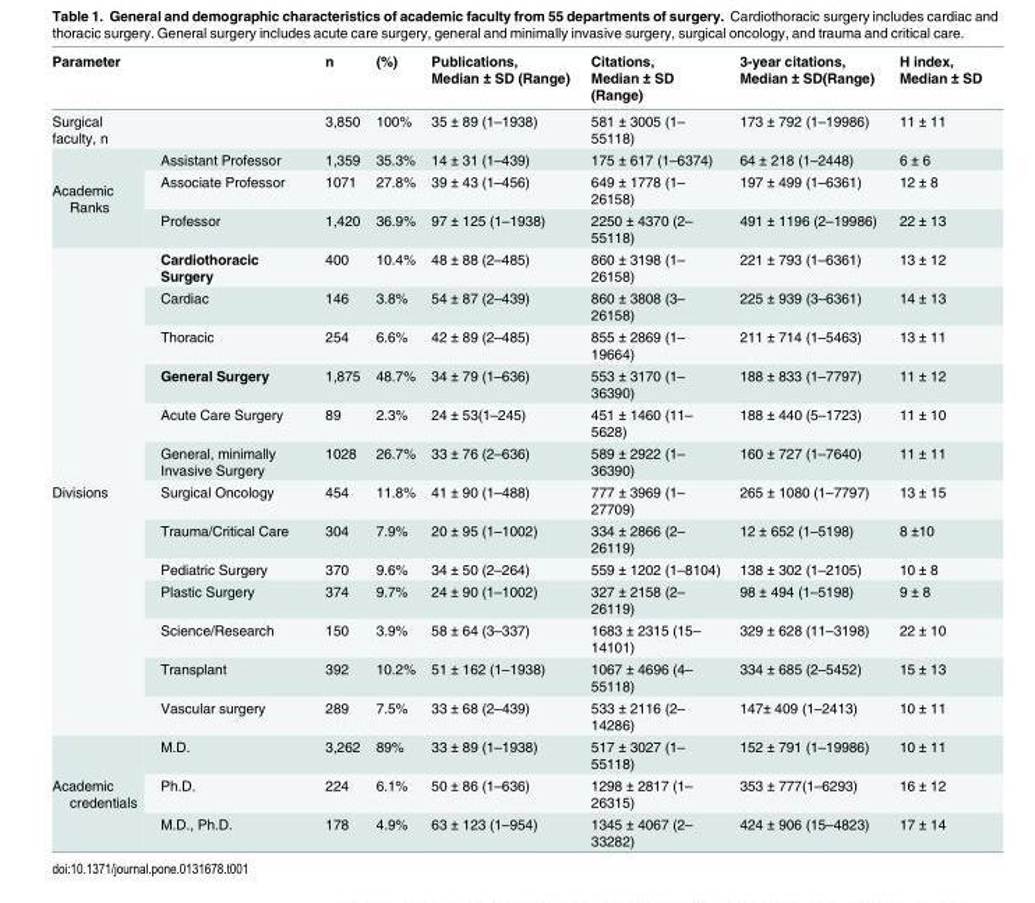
<table><thead><tr><td colspan="2">Parameter</td><td rowspan="2">n 3,850</td><td rowspan="2">(%) 100%</td><td rowspan="2">Publications, Median ± SD (Range) 35 ± 89 (1–1938)</td><td rowspan="2">Citations, Median ± SD (Range) 581 ± 3005 (1– 55118)</td><td rowspan="2">3-year citations, Median ± SD(Range) 173 ± 792 (1–19986)</td><td rowspan="2">H index, Median ± SD 11 ± 11</td></tr><tr><td>Surgical faculty, n</td><td></td></tr></thead><tbody><tr><td rowspan="3">Academic Ranks</td><td>Assistant Professor</td><td>1,359</td><td>35.3%</td><td>14 ± 31 (1–439)</td><td>175 ± 617 (1–6374)</td><td>64 ± 218 (1–2448)</td><td>6 ± 6</td></tr><tr><td>Associate Professor</td><td>1071</td><td>27.8%</td><td>39 ± 43 (1–456)</td><td>649 ± 1778 (1– 26158)</td><td>197 ± 499 (1–6361)</td><td>12 ± 8</td></tr><tr><td>Professor</td><td>1,420</td><td>36.9%</td><td>97 ± 125 (1–1938)</td><td>2250 ± 4370 (2– 55118)</td><td>491 ± 1196 (2–19986)</td><td>22 ± 13</td></tr><tr><td rowspan="13">Divisions</td><td>Cardiothoracic Surgery</td><td>400</td><td>10.4%</td><td>48 ± 88 (2–485)</td><td>860 ± 3198 (1– 26158)</td><td>221 ± 793 (1–6361)</td><td>13 ± 12</td></tr><tr><td>Cardiac</td><td>146</td><td>3.8%</td><td>54 ± 87 (2–439)</td><td>860 ± 3808 (3– 26158)</td><td>225 ± 939 (3–6361)</td><td>14 ± 13</td></tr><tr><td>Thoracic</td><td>254</td><td>6.6%</td><td>42 ± 89 (2–485)</td><td>855 ± 2869 (1– 19664)</td><td>211 ± 714 (1–5463)</td><td>13 ± 11</td></tr><tr><td>General Surgery</td><td>1,875</td><td>48.7%</td><td>34 ± 79 (1–636)</td><td>553 ± 3170 (1– 36390)</td><td>188 ± 833 (1–7797)</td><td>11 ± 12</td></tr><tr><td>Acute Care Surgery</td><td>89</td><td>2.3%</td><td>24 ± 53(1–245)</td><td>451 ± 1460 (11– 5628)</td><td>188 ± 440 (5–1723)</td><td>11 ± 10</td></tr><tr><td>General, minimally Invasive Surgery</td><td>1028</td><td>26.7%</td><td>33 ± 76 (2–636)</td><td>589 ± 2922 (1– 36390)</td><td>160 ± 727 (1–7640)</td><td>11 ± 11</td></tr><tr><td>Surgical Oncology</td><td>454</td><td>11.8%</td><td>41 ± 90 (1–488)</td><td>777 ± 3969 (1– 27709)</td><td>265 ± 1080 (1–7797)</td><td>13 ± 15</td></tr><tr><td>Trauma/Critical Care</td><td>304</td><td>7.9%</td><td>20 ± 95 (1–1002)</td><td>334 ± 2866 (2– 26119)</td><td>12 ± 652 (1–5198)</td><td>8 ±10</td></tr><tr><td>Pediatric Surgery</td><td>370</td><td>9.6%</td><td>34 ± 50 (2–264)</td><td>559 ± 1202 (1–8104)</td><td>138 ± 302 (1–2105)</td><td>10 ± 8</td></tr><tr><td>Plastic Surgery</td><td>374</td><td>9.7%</td><td>24 ± 90 (1–1002)</td><td>327 ± 2158 (2– 26119)</td><td>98 ± 494 (1–5198)</td><td>9 ± 8</td></tr><tr><td>Science/Research</td><td>150</td><td>3.9%</td><td>58 ± 64 (3–337)</td><td>1683 ± 2315 (15– 14101)</td><td>329 ± 628 (11–3198)</td><td>22 ± 10</td></tr><tr><td>Transplant</td><td>392</td><td>10.2%</td><td>51 ± 162 (1–1938)</td><td>1067 ± 4696 (4– 55118)</td><td>334 ± 685 (2–5452)</td><td>15 ± 13</td></tr><tr><td>Vascular surgery</td><td>289</td><td>7.5%</td><td>33 ± 68 (2–439)</td><td>533 ± 2116 (2– 14286)</td><td>147± 409 (1–2413)</td><td>10 ± 11</td></tr><tr><td rowspan="3">Academic credentials</td><td>M.D.</td><td>3,262</td><td>89%</td><td>33 ± 89 (1–1938)</td><td>517 ± 3027 (1– 55118)</td><td>152 ± 791 (1–19986)</td><td>10 ± 11</td></tr><tr><td>Ph.D.</td><td>224</td><td>6.1%</td><td>50 ± 86 (1–636)</td><td>1298 ± 2817 (1– 26315)</td><td>353 ± 777(1–6293)</td><td>16 ± 12</td></tr><tr><td>M.D., Ph.D.</td><td>178</td><td>4.9%</td><td>63 ± 123 (1–954)</td><td>1345 ± 4067 (2– 33282)</td><td>424 ± 906 (15–4823)</td><td>17 ± 14</td></tr></tbody></table>